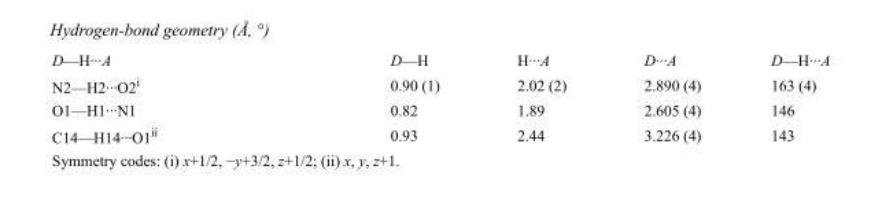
<table><tbody><tr><td>D—H···A</td><td>D—H</td><td>H···A</td><td>D···A</td><td>D—H···A</td></tr><tr><td>N2—H2···O2<sup>i</sup></td><td>0.90 (1)</td><td>2.02 (2)</td><td>2.890 (4)</td><td>163 (4)</td></tr><tr><td>O1—H1···N1</td><td>0.82</td><td>1.89</td><td>2.605 (4)</td><td>146</td></tr><tr><td>C14—H14···O1<sup>ii</sup></td><td>0.93</td><td>2.44</td><td>3.226 (4)</td><td>143</td></tr></tbody></table>